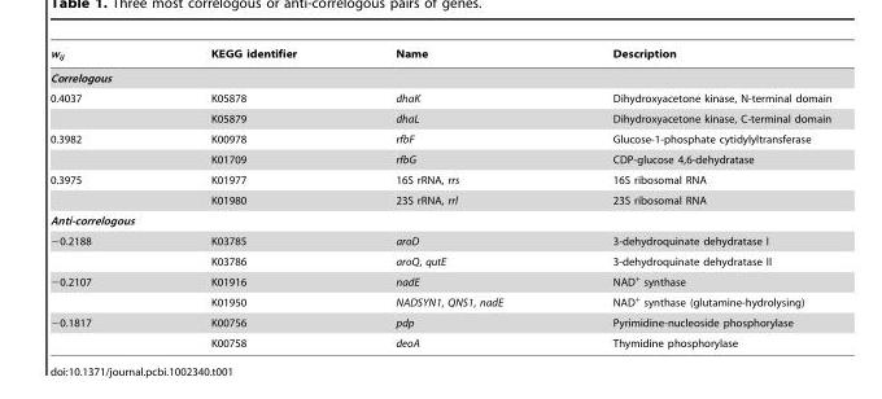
<table><thead><tr><td>w<sub>ij</sub></td><td>KEGG identifier</td><td>Name</td><td>Description</td></tr></thead><tbody><tr><td colspan="4">Correlogous</td></tr><tr><td rowspan="2">0.4037</td><td>K05878</td><td>dhaK</td><td>Dihydroxyacetone kinase, N-terminal domain</td></tr><tr><td>K05879</td><td>dhaL</td><td>Dihydroxyacetone kinase, C-terminal domain</td></tr><tr><td rowspan="2">0.3982</td><td>K00978</td><td>rfbF</td><td>Glucose-1-phosphate cytidylyltransferase</td></tr><tr><td>K01709</td><td>rfbG</td><td>CDP-glucose 4,6-dehydratase</td></tr><tr><td rowspan="2">0.3975</td><td>K01977</td><td>16S rRNA, rrs</td><td>16S ribosomal RNA</td></tr><tr><td>K01980</td><td>23S rRNA, rrl</td><td>23S ribosomal RNA</td></tr><tr><td colspan="4">Anti-correlogous</td></tr><tr><td rowspan="2">−0.2188</td><td>K03785</td><td>aroD</td><td>3-dehydroquinate dehydratase I</td></tr><tr><td>K03786</td><td>aroQ, qutE</td><td>3-dehydroquinate dehydratase II</td></tr><tr><td rowspan="2">−0.2107</td><td>K01916</td><td>nadE</td><td>NAD<sup>+</sup> synthase</td></tr><tr><td>K01950</td><td>NADSYN1, QNS1, nadE</td><td>NAD<sup>+</sup> synthase (glutamine-hydrolysing)</td></tr><tr><td rowspan="2">−0.1817</td><td>K00756</td><td>pdp</td><td>Pyrimidine-nucleoside phosphorylase</td></tr><tr><td>K00758</td><td>deoA</td><td>Thymidine phosphorylase</td></tr></tbody></table>